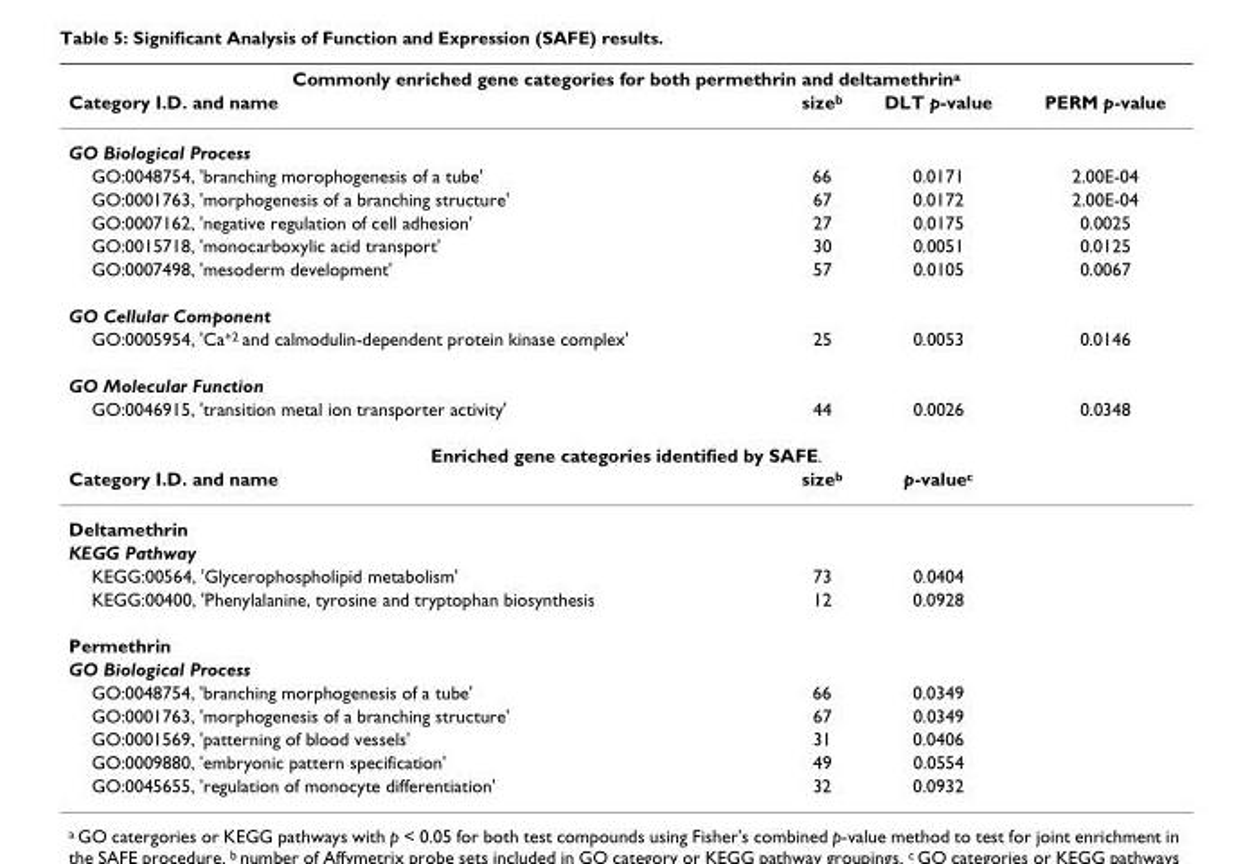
<table><thead><tr><td colspan="4">Commonly enriched gene categories for both permethrin and deltamethrin<sup>a</sup></td></tr><tr><td>Category I.D. and name</td><td>size<sup>b</sup></td><td>DLT p-value</td><td>PERM p-value</td></tr></thead><tbody><tr><td colspan="4">GO Biological Process</td></tr><tr><td>GO:0048754, &#x27;branching morophogenesis of a tube&#x27;</td><td>66</td><td>0.0171</td><td>2.00E-04</td></tr><tr><td>GO:0001763, &#x27;morphogenesis of a branching structure&#x27;</td><td>67</td><td>0.0172</td><td>2.00E-04</td></tr><tr><td>GO:0007162, &#x27;negative regulation of cell adhesion&#x27;</td><td>27</td><td>0.0175</td><td>0.0025</td></tr><tr><td>GO:0015718, &#x27;monocarboxylic acid transport&#x27;</td><td>30</td><td>0.0051</td><td>0.0125</td></tr><tr><td>GO:0007498, &#x27;mesoderm development&#x27;</td><td>57</td><td>0.0105</td><td>0.0067</td></tr><tr><td colspan="4">GO Cellular Component</td></tr><tr><td>GO:0005954, &#x27;Ca<sup>+2</sup> and calmodulin-dependent protein kinase complex&#x27;</td><td>25</td><td>0.0053</td><td>0.0146</td></tr><tr><td colspan="4">GO Molecular Function</td></tr><tr><td>GO:0046915, &#x27;transition metal ion transporter activity&#x27;</td><td>44</td><td>0.0026</td><td>0.0348</td></tr><tr><td colspan="4">Enriched gene categories identified by SAFE.</td></tr><tr><td>Category I.D. and name</td><td>size<sup>b</sup></td><td>p-value<sup>c</sup></td><td></td></tr><tr><td colspan="4">Deltamethrin</td></tr><tr><td colspan="4">KEGG Pathway</td></tr><tr><td>KEGG:00564, &#x27;Glycerophospholipid metabolism&#x27;</td><td>73</td><td>0.0404</td><td></td></tr><tr><td>KEGG:00400, &#x27;Phenylalanine, tyrosine and tryptophan biosynthesis</td><td>12</td><td>0.0928</td><td></td></tr><tr><td colspan="4">Permethrin</td></tr><tr><td colspan="4">GO Biological Process</td></tr><tr><td>GO:0048754, &#x27;branching morphogenesis of a tube&#x27;</td><td>66</td><td>0.0349</td><td></td></tr><tr><td>GO:0001763, &#x27;morphogenesis of a branching structure&#x27;</td><td>67</td><td>0.0349</td><td></td></tr><tr><td>GO:0001569, &#x27;patterning of blood vessels&#x27;</td><td>31</td><td>0.0406</td><td></td></tr><tr><td>GO:0009880, &#x27;embryonic pattern specification&#x27;</td><td>49</td><td>0.0554</td><td></td></tr><tr><td>GO:0045655, &#x27;regulation of monocyte differentiation&#x27;</td><td>32</td><td>0.0932</td><td></td></tr></tbody></table>